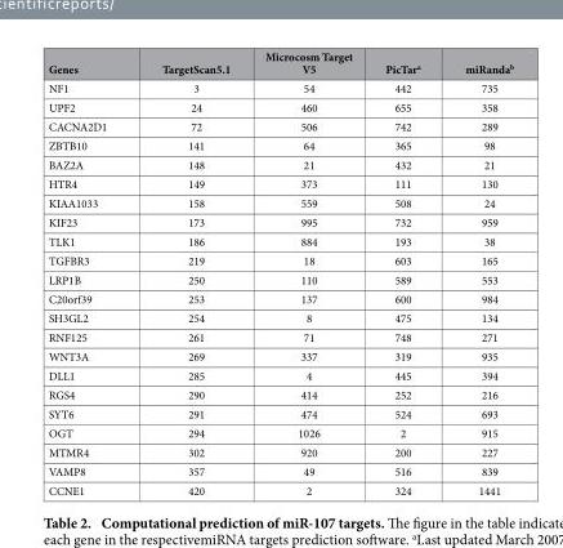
<table><thead><tr><td>Genes</td><td>TargetScan5.1</td><td>Microcosm Target V5</td><td>PicTar<sup>a</sup></td><td>miRanda<sup>b</sup></td></tr></thead><tbody><tr><td>NF1</td><td>3</td><td>54</td><td>442</td><td>735</td></tr><tr><td>UPF2</td><td>24</td><td>460</td><td>655</td><td>358</td></tr><tr><td>CACNA2D1</td><td>72</td><td>506</td><td>742</td><td>289</td></tr><tr><td>ZBTB10</td><td>141</td><td>64</td><td>365</td><td>98</td></tr><tr><td>BAZ2A</td><td>148</td><td>21</td><td>432</td><td>21</td></tr><tr><td>HTR4</td><td>149</td><td>373</td><td>111</td><td>130</td></tr><tr><td>KIAA1033</td><td>158</td><td>559</td><td>508</td><td>24</td></tr><tr><td>KIF23</td><td>173</td><td>995</td><td>732</td><td>959</td></tr><tr><td>TLK1</td><td>186</td><td>884</td><td>193</td><td>38</td></tr><tr><td>TGFBR3</td><td>219</td><td>18</td><td>603</td><td>165</td></tr><tr><td>LRP1B</td><td>250</td><td>110</td><td>589</td><td>553</td></tr><tr><td>C20orf39</td><td>253</td><td>137</td><td>600</td><td>984</td></tr><tr><td>SH3GL2</td><td>254</td><td>8</td><td>475</td><td>134</td></tr><tr><td>RNF125</td><td>261</td><td>71</td><td>748</td><td>271</td></tr><tr><td>WNT3A</td><td>269</td><td>337</td><td>319</td><td>935</td></tr><tr><td>DLL1</td><td>285</td><td>4</td><td>445</td><td>394</td></tr><tr><td>RGS4</td><td>290</td><td>414</td><td>252</td><td>216</td></tr><tr><td>SYT6</td><td>291</td><td>474</td><td>524</td><td>693</td></tr><tr><td>OGT</td><td>294</td><td>1026</td><td>2</td><td>915</td></tr><tr><td>MTMR4</td><td>302</td><td>920</td><td>200</td><td>227</td></tr><tr><td>VAMP8</td><td>357</td><td>49</td><td>516</td><td>839</td></tr><tr><td>CCNE1</td><td>420</td><td>2</td><td>324</td><td>1441</td></tr></tbody></table>